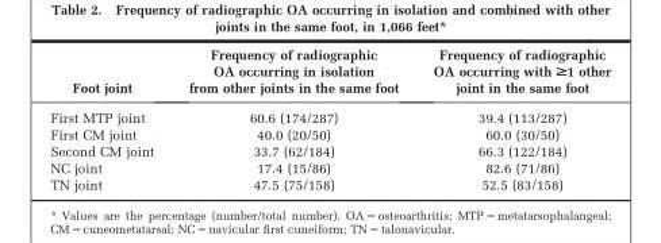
<table><thead><tr><td>Foot joint</td><td>Frequency of radiographic OA occurring in isolation from other joints in the same foot</td><td>Frequency of radiographic OA occurring with ‡1 other joint in the same foot</td></tr></thead><tbody><tr><td>First MTP joint</td><td>60.6 (174/287)</td><td>39.4 (113/287)</td></tr><tr><td>First CM joint</td><td>40.0 (20/50)</td><td>60.0 (30/50)</td></tr><tr><td>Second CM joint</td><td>33.7 (62/184)</td><td>66.3 (122/184)</td></tr><tr><td>NC joint</td><td>17.4 (15/86)</td><td>82.6 (71/86)</td></tr><tr><td>TN joint</td><td>47.5 (75/158)</td><td>52.5 (83/158)</td></tr></tbody></table>